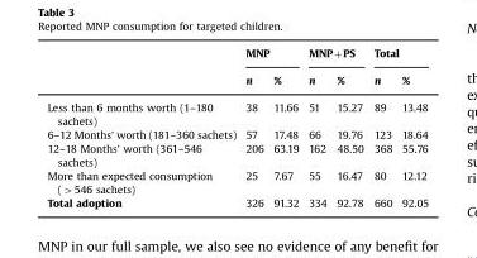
<table><thead><tr><td rowspan="2"></td><td colspan="2">MNP</td><td colspan="2">MNP+PS</td><td colspan="2">Total</td></tr><tr><td>n</td><td>%</td><td>n</td><td>%</td><td>n</td><td>%</td></tr></thead><tbody><tr><td>Less than 6 months worth (1–180 sachets)</td><td>38</td><td>11.66</td><td>51</td><td>15.27</td><td>89</td><td>13.48</td></tr><tr><td>6–12 Months’ worth (181–360 sachets)</td><td>57</td><td>17.48</td><td>66</td><td>19.76</td><td>123</td><td>18.64</td></tr><tr><td>12–18 Months’ worth (361–546 sachets)</td><td>206</td><td>63.19</td><td>162</td><td>48.50</td><td>368</td><td>55.76</td></tr><tr><td>More than expected consumption (&gt;546 sachets)</td><td>25</td><td>7.67</td><td>55</td><td>16.47</td><td>80</td><td>12.12</td></tr><tr><td>Total adoption</td><td>326</td><td>91.32</td><td>334</td><td>92.78</td><td>660</td><td>92.05</td></tr></tbody></table>